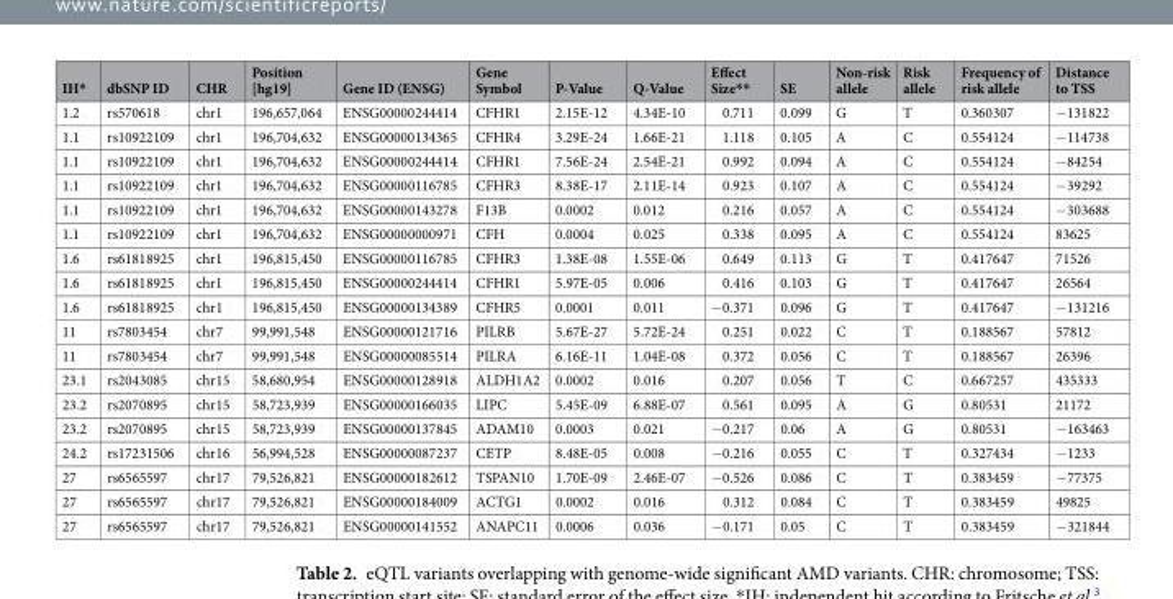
<table><thead><tr><td>IH*</td><td>dbSNP ID</td><td>CHR</td><td>Position [hg19]</td><td>Gene ID (ENSG)</td><td>Gene Symbol</td><td>P-Value</td><td>Q-Value</td><td>Effect Size**</td><td>SE</td><td>Non-risk allele</td><td>Risk allele</td><td>Frequency of risk allele</td><td>Distance to TSS</td></tr></thead><tbody><tr><td>1.2</td><td>rs570618</td><td>chr1</td><td>196,657,064</td><td>ENSG00000244414</td><td>CFHR1</td><td>2.15E-12</td><td>4.34E-10</td><td>0.711</td><td>0.099</td><td>G</td><td>T</td><td>0.360307</td><td>−131822</td></tr><tr><td>1.1</td><td>rs10922109</td><td>chr1</td><td>196,704,632</td><td>ENSG00000134365</td><td>CFHR4</td><td>3.29E-24</td><td>1.66E-21</td><td>1.118</td><td>0.105</td><td>A</td><td>C</td><td>0.554124</td><td>−114738</td></tr><tr><td>1.1</td><td>rs10922109</td><td>chr1</td><td>196,704,632</td><td>ENSG00000244414</td><td>CFHR1</td><td>7.56E-24</td><td>2.54E-21</td><td>0.992</td><td>0.094</td><td>A</td><td>C</td><td>0.554124</td><td>−84254</td></tr><tr><td>1.1</td><td>rs10922109</td><td>chr1</td><td>196,704,632</td><td>ENSG00000116785</td><td>CFHR3</td><td>8.38E-17</td><td>2.11E-14</td><td>0.923</td><td>0.107</td><td>A</td><td>C</td><td>0.554124</td><td>−39292</td></tr><tr><td>1.1</td><td>rs10922109</td><td>chr1</td><td>196,704,632</td><td>ENSG00000143278</td><td>F13B</td><td>0.0002</td><td>0.012</td><td>0.216</td><td>0.057</td><td>A</td><td>C</td><td>0.554124</td><td>−303688</td></tr><tr><td>1.1</td><td>rs10922109</td><td>chr1</td><td>196,704,632</td><td>ENSG00000000971</td><td>CFH</td><td>0.0004</td><td>0.025</td><td>0.338</td><td>0.095</td><td>A</td><td>C</td><td>0.554124</td><td>83625</td></tr><tr><td>1.6</td><td>rs61818925</td><td>chr1</td><td>196,815,450</td><td>ENSG00000116785</td><td>CFHR3</td><td>1.38E-08</td><td>1.55E-06</td><td>0.649</td><td>0.113</td><td>G</td><td>T</td><td>0.417647</td><td>71526</td></tr><tr><td>1.6</td><td>rs61818925</td><td>chr1</td><td>196,815,450</td><td>ENSG00000244414</td><td>CFHR1</td><td>5.97E-05</td><td>0.006</td><td>0.416</td><td>0.103</td><td>G</td><td>T</td><td>0.417647</td><td>26564</td></tr><tr><td>1.6</td><td>rs61818925</td><td>chr1</td><td>196,815,450</td><td>ENSG00000134389</td><td>CFHR5</td><td>0.0001</td><td>0.011</td><td>−0.371</td><td>0.096</td><td>G</td><td>T</td><td>0.417647</td><td>−131216</td></tr><tr><td>11</td><td>rs7803454</td><td>chr7</td><td>99,991,548</td><td>ENSG00000121716</td><td>PILRB</td><td>5.67E-27</td><td>5.72E-24</td><td>0.251</td><td>0.022</td><td>C</td><td>T</td><td>0.188567</td><td>57812</td></tr><tr><td>11</td><td>rs7803454</td><td>chr7</td><td>99,991,548</td><td>ENSG00000085514</td><td>PILRA</td><td>6.16E-11</td><td>1.04E-08</td><td>0.372</td><td>0.056</td><td>C</td><td>T</td><td>0.188567</td><td>26396</td></tr><tr><td>23.1</td><td>rs2043085</td><td>chr15</td><td>58,680,954</td><td>ENSG00000128918</td><td>ALDH1A2</td><td>0.0002</td><td>0.016</td><td>0.207</td><td>0.056</td><td>T</td><td>C</td><td>0.667257</td><td>435333</td></tr><tr><td>23.2</td><td>rs2070895</td><td>chr15</td><td>58,723,939</td><td>ENSG00000166035</td><td>LIPC</td><td>5.45E-09</td><td>6.88E-07</td><td>0.561</td><td>0.095</td><td>A</td><td>G</td><td>0.80531</td><td>21172</td></tr><tr><td>23.2</td><td>rs2070895</td><td>chr15</td><td>58,723,939</td><td>ENSG00000137845</td><td>ADAM10</td><td>0.0003</td><td>0.021</td><td>−0.217</td><td>0.06</td><td>A</td><td>G</td><td>0.80531</td><td>−163463</td></tr><tr><td>24.2</td><td>rs17231506</td><td>chr16</td><td>56,994,528</td><td>ENSG00000087237</td><td>CETP</td><td>8.48E-05</td><td>0.008</td><td>−0.216</td><td>0.055</td><td>C</td><td>T</td><td>0.327434</td><td>−1233</td></tr><tr><td>27</td><td>rs6565597</td><td>chr17</td><td>79,526,821</td><td>ENSG00000182612</td><td>TSPAN10</td><td>1.70E-09</td><td>2.46E-07</td><td>−0.526</td><td>0.086</td><td>C</td><td>T</td><td>0.383459</td><td>−77375</td></tr><tr><td>27</td><td>rs6565597</td><td>chr17</td><td>79,526,821</td><td>ENSG00000184009</td><td>ACTG1</td><td>0.0002</td><td>0.016</td><td>0.312</td><td>0.084</td><td>C</td><td>T</td><td>0.383459</td><td>49825</td></tr><tr><td>27</td><td>rs6565597</td><td>chr17</td><td>79,526,821</td><td>ENSG00000141552</td><td>ANAPC11</td><td>0.0006</td><td>0.036</td><td>−0.171</td><td>0.05</td><td>C</td><td>T</td><td>0.383459</td><td>−321844</td></tr></tbody></table>